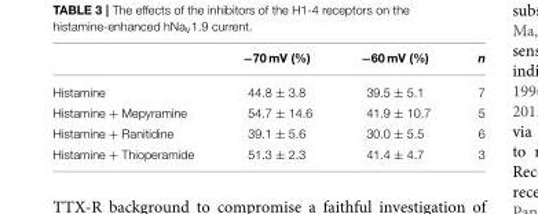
<table><thead><tr><td></td><td>−70 mV (%)</td><td>−60 mV (%)</td><td>n</td></tr></thead><tbody><tr><td>Histamine</td><td>44.8 ± 3.8</td><td>39.5 ± 5.1</td><td>7</td></tr><tr><td>Histamine + Mepyramine</td><td>54.7 ± 14.6</td><td>41.9 ± 10.7</td><td>5</td></tr><tr><td>Histamine + Ranitidine</td><td>39.1 ± 5.6</td><td>30.0 ± 5.5</td><td>6</td></tr><tr><td>Histamine + Thioperamide</td><td>51.3 ± 2.3</td><td>41.4 ± 4.7</td><td>3</td></tr></tbody></table>